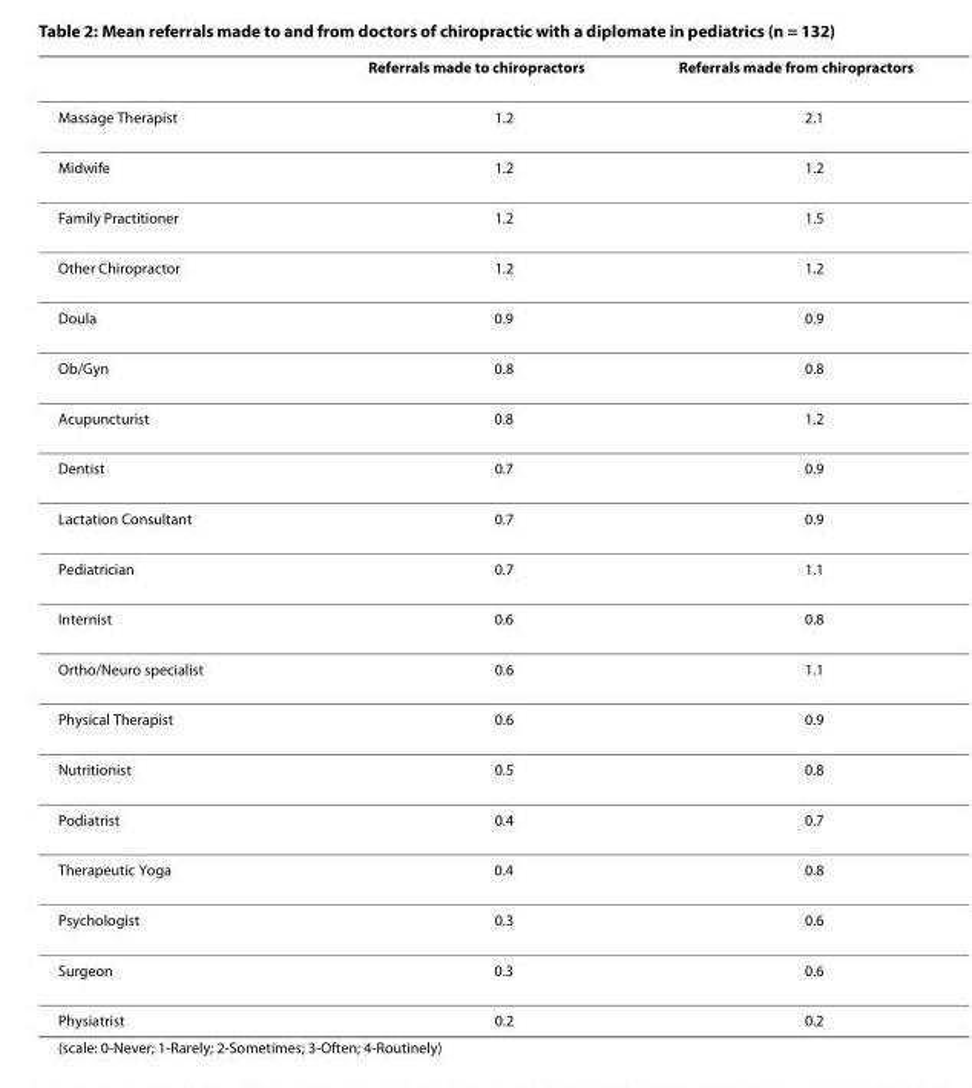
<table><thead><tr><td></td><td>Referrals made to chiropractors</td><td>Referrals made from chiropractors</td></tr></thead><tbody><tr><td>Massage Therapist</td><td>1.2</td><td>2.1</td></tr><tr><td>Midwife</td><td>1.2</td><td>1.2</td></tr><tr><td>Family Practitioner</td><td>1.2</td><td>1.5</td></tr><tr><td>Other Chiropractor</td><td>1.2</td><td>1.2</td></tr><tr><td>Doula</td><td>0.9</td><td>0.9</td></tr><tr><td>Ob/Gyn</td><td>0.8</td><td>0.8</td></tr><tr><td>Acupuncturist</td><td>0.8</td><td>1.2</td></tr><tr><td>Dentist</td><td>0.7</td><td>0.9</td></tr><tr><td>Lactation Consultant</td><td>0.7</td><td>0.9</td></tr><tr><td>Pediatrician</td><td>0.7</td><td>1.1</td></tr><tr><td>Internist</td><td>0.6</td><td>0.8</td></tr><tr><td>Ortho/Neuro specialist</td><td>0.6</td><td>1.1</td></tr><tr><td>Physical Therapist</td><td>0.6</td><td>0.9</td></tr><tr><td>Nutritionist</td><td>0.5</td><td>0.8</td></tr><tr><td>Podiatrist</td><td>0.4</td><td>0.7</td></tr><tr><td>Therapeutic Yoga</td><td>0.4</td><td>0.8</td></tr><tr><td>Psychologist</td><td>0.3</td><td>0.6</td></tr><tr><td>Surgeon</td><td>0.3</td><td>0.6</td></tr><tr><td>Physiatrist</td><td>0.2</td><td>0.2</td></tr></tbody></table>